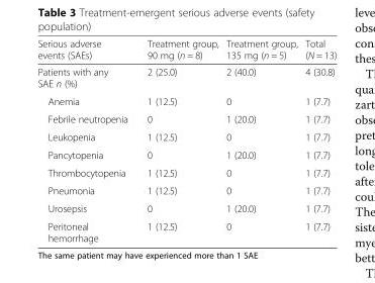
<table><thead><tr><td>Serious adverse events (SAEs)</td><td>Treatment group, 90 mg (n = 8)</td><td>Treatment group, 135 mg (n = 5)</td><td>Total (N = 13)</td></tr></thead><tbody><tr><td>Patients with any SAE n (%)</td><td>2 (25.0)</td><td>2 (40.0)</td><td>4 (30.8)</td></tr><tr><td>Anemia</td><td>1 (12.5)</td><td>0</td><td>1 (7.7)</td></tr><tr><td>Febrile neutropenia</td><td>0</td><td>1 (20.0)</td><td>1 (7.7)</td></tr><tr><td>Leukopenia</td><td>1 (12.5)</td><td>0</td><td>1 (7.7)</td></tr><tr><td>Pancytopenia</td><td>0</td><td>1 (20.0)</td><td>1 (7.7)</td></tr><tr><td>Thrombocytopenia</td><td>1 (12.5)</td><td>0</td><td>1 (7.7)</td></tr><tr><td>Pneumonia</td><td>1 (12.5)</td><td>0</td><td>1 (7.7)</td></tr><tr><td>Urosepsis</td><td>0</td><td>1 (20.0)</td><td>1 (7.7)</td></tr><tr><td>Peritoneal hemorrhage</td><td>1 (12.5)</td><td>0</td><td>1 (7.7)</td></tr></tbody></table>